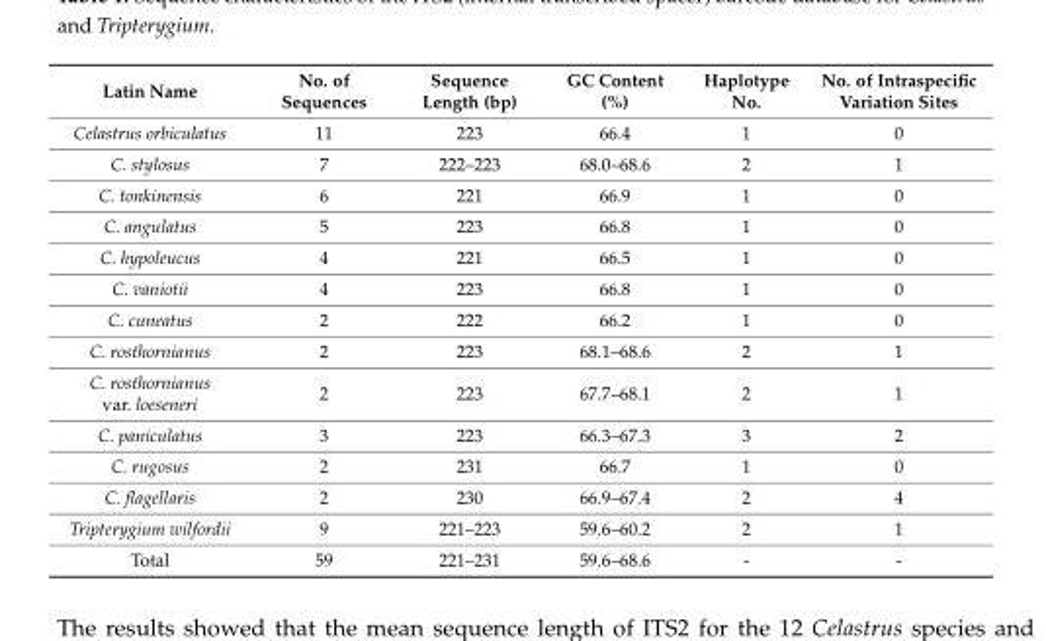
<table><thead><tr><td>Latin Name</td><td>No. of Sequences</td><td>Sequence Length (bp)</td><td>GC Content (%)</td><td>Haplotype No.</td><td>No. of Intraspecific Variation Sites</td></tr></thead><tbody><tr><td>Celastrus orbiculatus</td><td>11</td><td>223</td><td>66.4</td><td>1</td><td>0</td></tr><tr><td>C. stylosus</td><td>7</td><td>222–223</td><td>68.0–68.6</td><td>2</td><td>1</td></tr><tr><td>C. tonkinensis</td><td>6</td><td>221</td><td>66.9</td><td>1</td><td>0</td></tr><tr><td>C. angulatus</td><td>5</td><td>223</td><td>66.8</td><td>1</td><td>0</td></tr><tr><td>C. hypoleucus</td><td>4</td><td>221</td><td>66.5</td><td>1</td><td>0</td></tr><tr><td>C. vaniotii</td><td>4</td><td>223</td><td>66.8</td><td>1</td><td>0</td></tr><tr><td>C. cuneatus</td><td>2</td><td>222</td><td>66.2</td><td>1</td><td>0</td></tr><tr><td>C. rosthornianus</td><td>2</td><td>223</td><td>68.1–68.6</td><td>2</td><td>1</td></tr><tr><td>C. rosthornianus var. loeseneri</td><td>2</td><td>223</td><td>67.7–68.1</td><td>2</td><td>1</td></tr><tr><td>C. paniculatus</td><td>3</td><td>223</td><td>66.3–67.3</td><td>3</td><td>2</td></tr><tr><td>C. rugosus</td><td>2</td><td>231</td><td>66.7</td><td>1</td><td>0</td></tr><tr><td>C. flagellaris</td><td>2</td><td>230</td><td>66.9–67.4</td><td>2</td><td>4</td></tr><tr><td>Tripterygium wilfordii</td><td>9</td><td>221–223</td><td>59.6–60.2</td><td>2</td><td>1</td></tr><tr><td>Total</td><td>59</td><td>221–231</td><td>59.6–68.6</td><td>-</td><td>-</td></tr></tbody></table>